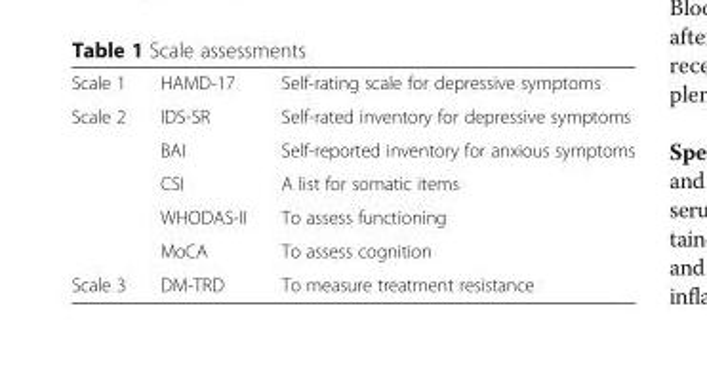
<table><tbody><tr><td>Scale 1</td><td>HAMD-17</td><td>Self-rating scale for depressive symptoms</td></tr><tr><td rowspan="5">Scale 2</td><td>IDS-SR</td><td>Self-rated inventory for depressive symptoms</td></tr><tr><td>BAI</td><td>Self-reported inventory for anxious symptoms</td></tr><tr><td>CSI</td><td>A list for somatic items</td></tr><tr><td>WHODAS-II</td><td>To assess functioning</td></tr><tr><td>MoCA</td><td>To assess cognition</td></tr><tr><td>Scale 3</td><td>DM-TRD</td><td>To measure treatment resistance</td></tr></tbody></table>